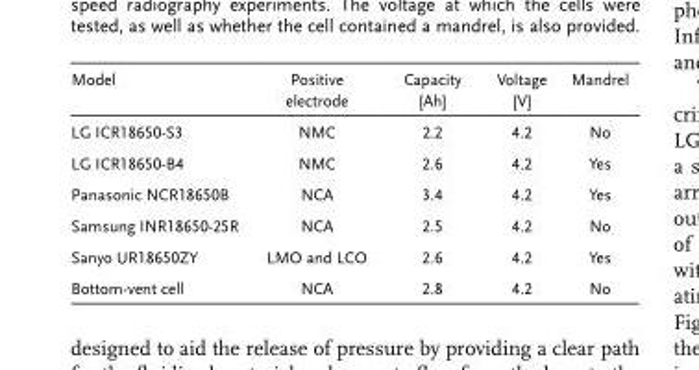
<table><thead><tr><td>Model</td><td>Positive electrode</td><td>Capacity [Ah]</td><td>Voltage [V]</td><td>Mandrel</td></tr></thead><tbody><tr><td>LG ICR18650-S3</td><td>NMC</td><td>2.2</td><td>4.2</td><td>No</td></tr><tr><td>LG ICR18650-B4</td><td>NMC</td><td>2.6</td><td>4.2</td><td>Yes</td></tr><tr><td>Panasonic NCR18650B</td><td>NCA</td><td>3.4</td><td>4.2</td><td>Yes</td></tr><tr><td>Samsung INR18650-25R</td><td>NCA</td><td>2.5</td><td>4.2</td><td>No</td></tr><tr><td>Sanyo UR18650ZY</td><td>LMO and LCO</td><td>2.6</td><td>4.2</td><td>Yes</td></tr><tr><td>Bottom-vent cell</td><td>NCA</td><td>2.8</td><td>4.2</td><td>No</td></tr></tbody></table>